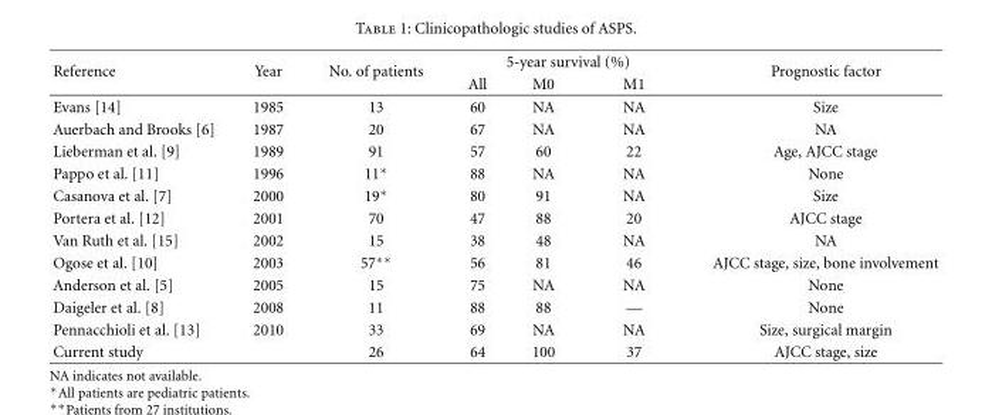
<table><thead><tr><td rowspan="2">Reference</td><td rowspan="2">Year</td><td rowspan="2">No. of patients</td><td colspan="3">5-year survival (%)</td><td rowspan="2">Prognostic factor</td></tr><tr><td>All</td><td>M0</td><td>M1</td></tr></thead><tbody><tr><td>Evans [14]</td><td>1985</td><td>13</td><td>60</td><td>NA</td><td>NA</td><td>Size</td></tr><tr><td>Auerbach and Brooks [6]</td><td>1987</td><td>20</td><td>67</td><td>NA</td><td>NA</td><td>NA</td></tr><tr><td>Lieberman et al. [9]</td><td>1989</td><td>91</td><td>57</td><td>60</td><td>22</td><td>Age, AJCC stage</td></tr><tr><td>Pappo et al. [11]</td><td>1996</td><td>11∗</td><td>88</td><td>NA</td><td>NA</td><td>None</td></tr><tr><td>Casanova et al. [7]</td><td>2000</td><td>19∗</td><td>80</td><td>91</td><td>NA</td><td>Size</td></tr><tr><td>Portera et al. [12]</td><td>2001</td><td>70</td><td>47</td><td>88</td><td>20</td><td>AJCC stage</td></tr><tr><td>Van Ruth et al. [15]</td><td>2002</td><td>15</td><td>38</td><td>48</td><td>NA</td><td>NA</td></tr><tr><td>Ogose et al. [10]</td><td>2003</td><td>57∗∗</td><td>56</td><td>81</td><td>46</td><td>AJCC stage, size, bone involvement</td></tr><tr><td>Anderson et al. [5]</td><td>2005</td><td>15</td><td>75</td><td>NA</td><td>NA</td><td>None</td></tr><tr><td>Daigeler et al. [8]</td><td>2008</td><td>11</td><td>88</td><td>88</td><td>—</td><td>None</td></tr><tr><td>Pennacchioli et al. [13]</td><td>2010</td><td>33</td><td>69</td><td>NA</td><td>NA</td><td>Size, surgical margin</td></tr><tr><td>Current study</td><td></td><td>26</td><td>64</td><td>100</td><td>37</td><td>AJCC stage, size</td></tr></tbody></table>